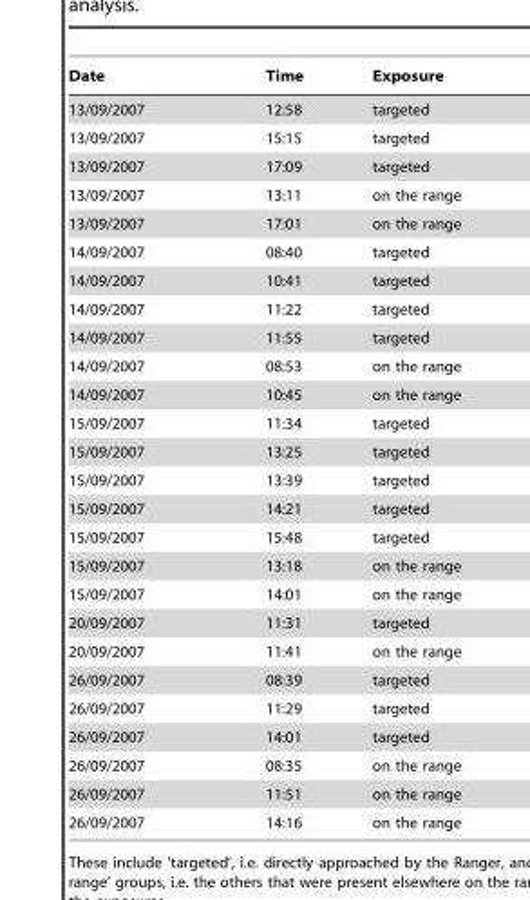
<table><thead><tr><td>Date</td><td>Time</td><td>Exposure</td></tr></thead><tbody><tr><td>13/09/2007</td><td>12:58</td><td>targeted</td></tr><tr><td>13/09/2007</td><td>15:15</td><td>targeted</td></tr><tr><td>13/09/2007</td><td>17:09</td><td>targeted</td></tr><tr><td>13/09/2007</td><td>13:11</td><td>on the range</td></tr><tr><td>13/09/2007</td><td>17:01</td><td>on the range</td></tr><tr><td>14/09/2007</td><td>08:40</td><td>targeted</td></tr><tr><td>14/09/2007</td><td>10:41</td><td>targeted</td></tr><tr><td>14/09/2007</td><td>11:22</td><td>targeted</td></tr><tr><td>14/09/2007</td><td>11:55</td><td>targeted</td></tr><tr><td>14/09/2007</td><td>08:53</td><td>on the range</td></tr><tr><td>14/09/2007</td><td>10:45</td><td>on the range</td></tr><tr><td>15/09/2007</td><td>11:34</td><td>targeted</td></tr><tr><td>15/09/2007</td><td>13:25</td><td>targeted</td></tr><tr><td>15/09/2007</td><td>13:39</td><td>targeted</td></tr><tr><td>15/09/2007</td><td>14:21</td><td>targeted</td></tr><tr><td>15/09/2007</td><td>15:48</td><td>targeted</td></tr><tr><td>15/09/2007</td><td>13:18</td><td>on the range</td></tr><tr><td>15/09/2007</td><td>14:01</td><td>on the range</td></tr><tr><td>20/09/2007</td><td>11:31</td><td>targeted</td></tr><tr><td>20/09/2007</td><td>11:41</td><td>on the range</td></tr><tr><td>26/09/2007</td><td>08:39</td><td>targeted</td></tr><tr><td>26/09/2007</td><td>11:29</td><td>targeted</td></tr><tr><td>26/09/2007</td><td>14:01</td><td>targeted</td></tr><tr><td>26/09/2007</td><td>08:35</td><td>on the range</td></tr><tr><td>26/09/2007</td><td>11:51</td><td>on the range</td></tr><tr><td>26/09/2007</td><td>14:16</td><td>on the range</td></tr></tbody></table>